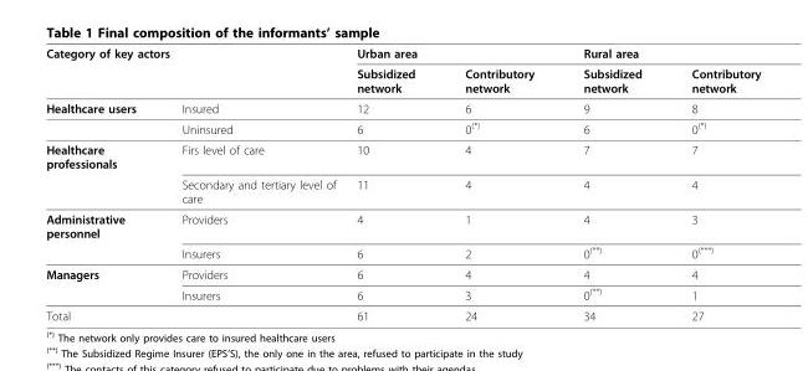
<table><thead><tr><td rowspan="2">Category of key actors</td><td rowspan="2"></td><td colspan="2">Urban area</td><td colspan="2">Rural area</td></tr><tr><td>Subsidized network</td><td>Contributory network</td><td>Subsidized network</td><td>Contributory network</td></tr></thead><tbody><tr><td rowspan="2">Healthcare users</td><td>Insured</td><td>12</td><td>6</td><td>9</td><td>8</td></tr><tr><td>Uninsured</td><td>6</td><td>0<sup>(*)</sup></td><td>6</td><td>0<sup>(*)</sup></td></tr><tr><td rowspan="2">Healthcare professionals</td><td>Firs level of care</td><td>10</td><td>4</td><td>7</td><td>7</td></tr><tr><td>Secondary and tertiary level of care</td><td>11</td><td>4</td><td>4</td><td>4</td></tr><tr><td rowspan="2">Administrative personnel</td><td>Providers</td><td>4</td><td>1</td><td>4</td><td>3</td></tr><tr><td>Insurers</td><td>6</td><td>2</td><td>0<sup>(**)</sup></td><td>0<sup>(***)</sup></td></tr><tr><td rowspan="2">Managers</td><td>Providers</td><td>6</td><td>4</td><td>4</td><td>4</td></tr><tr><td>Insurers</td><td>6</td><td>3</td><td>0<sup>(**)</sup></td><td>1</td></tr><tr><td colspan="2">Total</td><td>61</td><td>24</td><td>34</td><td>27</td></tr></tbody></table>